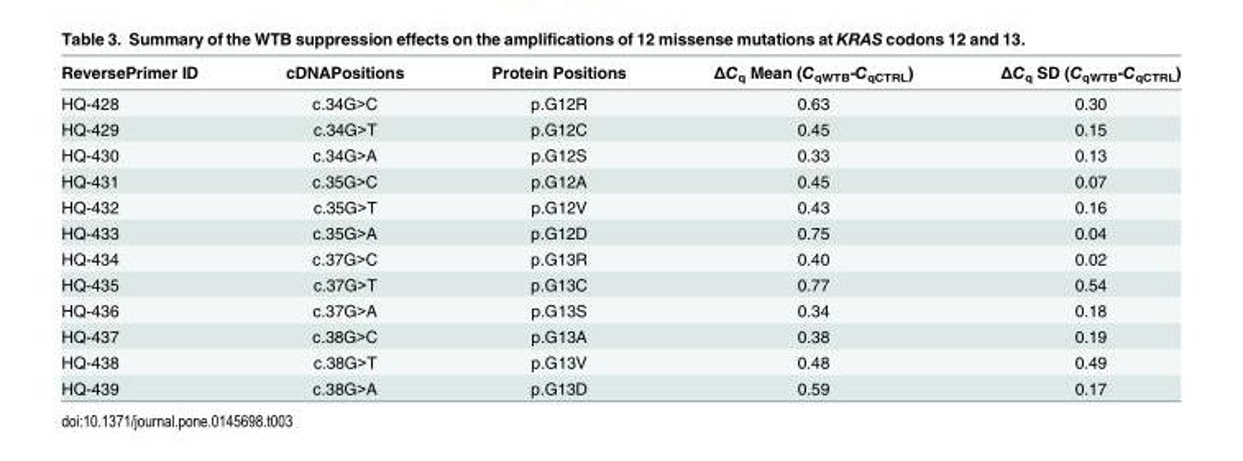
<table><thead><tr><td>ReversePrimer ID</td><td>cDNAPositions</td><td>Protein Positions</td><td>ΔC<sub>q</sub> Mean (C<sub>qWTB</sub>-C<sub>qCTRL</sub>)</td><td>ΔC<sub>q</sub> SD (C<sub>qWTB</sub>-C<sub>qCTRL</sub>)</td></tr></thead><tbody><tr><td>HQ-428</td><td>c.34G&gt;C</td><td>p.G12R</td><td>0.63</td><td>0.30</td></tr><tr><td>HQ-429</td><td>c.34G&gt;T</td><td>p.G12C</td><td>0.45</td><td>0.15</td></tr><tr><td>HQ-430</td><td>c.34G&gt;A</td><td>p.G12S</td><td>0.33</td><td>0.13</td></tr><tr><td>HQ-431</td><td>c.35G&gt;C</td><td>p.G12A</td><td>0.45</td><td>0.07</td></tr><tr><td>HQ-432</td><td>c.35G&gt;T</td><td>p.G12V</td><td>0.43</td><td>0.16</td></tr><tr><td>HQ-433</td><td>c.35G&gt;A</td><td>p.G12D</td><td>0.75</td><td>0.04</td></tr><tr><td>HQ-434</td><td>c.37G&gt;C</td><td>p.G13R</td><td>0.40</td><td>0.02</td></tr><tr><td>HQ-435</td><td>c.37G&gt;T</td><td>p.G13C</td><td>0.77</td><td>0.54</td></tr><tr><td>HQ-436</td><td>c.37G&gt;A</td><td>p.G13S</td><td>0.34</td><td>0.18</td></tr><tr><td>HQ-437</td><td>c.38G&gt;C</td><td>p.G13A</td><td>0.38</td><td>0.19</td></tr><tr><td>HQ-438</td><td>c.38G&gt;T</td><td>p.G13V</td><td>0.48</td><td>0.49</td></tr><tr><td>HQ-439</td><td>c.38G&gt;A</td><td>p.G13D</td><td>0.59</td><td>0.17</td></tr></tbody></table>